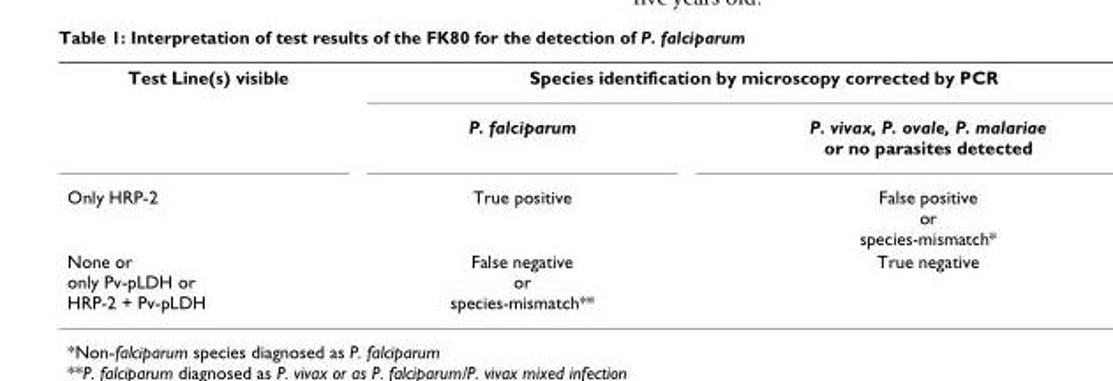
<table><tbody><tr><td rowspan="2">Test Line(s) visible</td><td colspan="2">Species identification by microscopy corrected by PCR</td></tr><tr><td>P. falciparum</td><td>P. vivax, P. ovale, P. malariae or no parasites detected</td></tr><tr><td>Only HRP-2</td><td>True positive</td><td>False positive or species-mismatch*</td></tr><tr><td>None or only Pv-pLDH or HRP-2 + Pv-pLDH</td><td>False negative or species-mismatch**</td><td>True negative</td></tr></tbody></table>